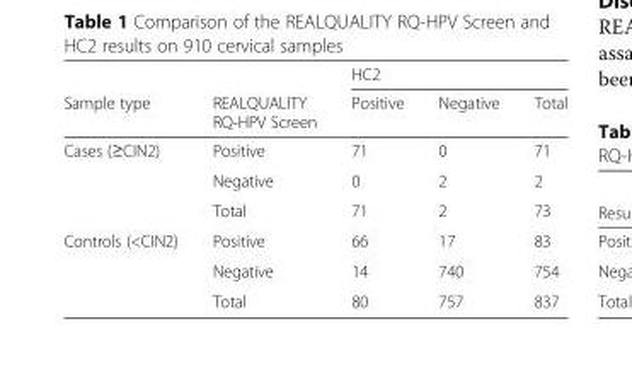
<table><thead><tr><td rowspan="2">Sample type</td><td rowspan="2">REALQUALITY RQ-HPV Screen</td><td colspan="3">HC2</td></tr><tr><td>Positive</td><td>Negative</td><td>Total</td></tr></thead><tbody><tr><td rowspan="3">Cases (≥CIN2)</td><td>Positive</td><td>71</td><td>0</td><td>71</td></tr><tr><td>Negative</td><td>0</td><td>2</td><td>2</td></tr><tr><td>Total</td><td>71</td><td>2</td><td>73</td></tr><tr><td rowspan="3">Controls (&lt;CIN2)</td><td>Positive</td><td>66</td><td>17</td><td>83</td></tr><tr><td>Negative</td><td>14</td><td>740</td><td>754</td></tr><tr><td>Total</td><td>80</td><td>757</td><td>837</td></tr></tbody></table>